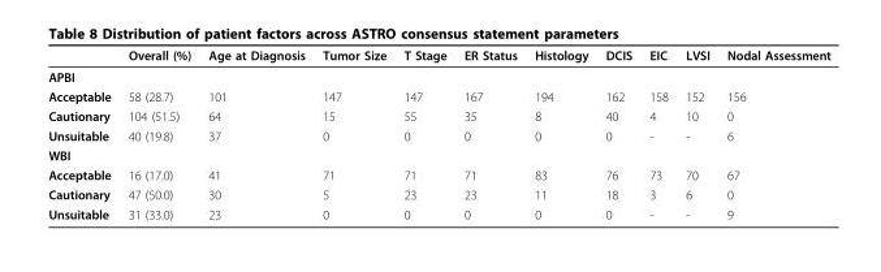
<table><thead><tr><td></td><td>Overall (%)</td><td>Age at Diagnosis</td><td>Tumor Size</td><td>T Stage</td><td>ER Status</td><td>Histology</td><td>DCIS</td><td>EIC</td><td>LVSI</td><td>Nodal Assessment</td></tr></thead><tbody><tr><td colspan="11">APBI</td></tr><tr><td>Acceptable</td><td>58 (28.7)</td><td>101</td><td>147</td><td>147</td><td>167</td><td>194</td><td>162</td><td>158</td><td>152</td><td>156</td></tr><tr><td>Cautionary</td><td>104 (51.5)</td><td>64</td><td>15</td><td>55</td><td>35</td><td>8</td><td>40</td><td>4</td><td>10</td><td>0</td></tr><tr><td>Unsuitable</td><td>40 (19.8)</td><td>37</td><td>0</td><td>0</td><td>0</td><td>0</td><td>0</td><td>-</td><td>-</td><td>6</td></tr><tr><td colspan="11">WBI</td></tr><tr><td>Acceptable</td><td>16 (17.0)</td><td>41</td><td>71</td><td>71</td><td>71</td><td>83</td><td>76</td><td>73</td><td>70</td><td>67</td></tr><tr><td>Cautionary</td><td>47 (50.0)</td><td>30</td><td>5</td><td>23</td><td>23</td><td>11</td><td>18</td><td>3</td><td>6</td><td>0</td></tr><tr><td>Unsuitable</td><td>31 (33.0)</td><td>23</td><td>0</td><td>0</td><td>0</td><td>0</td><td>0</td><td>-</td><td>-</td><td>9</td></tr></tbody></table>